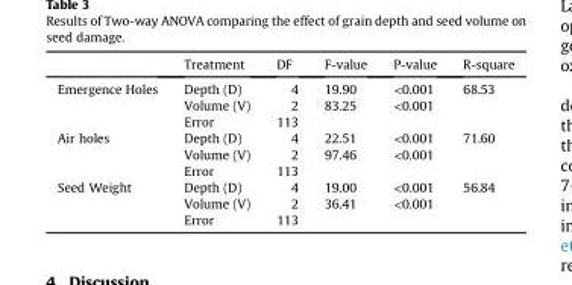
<table><thead><tr><td></td><td>Treatment</td><td>DF</td><td>F-value</td><td>P-value</td><td>R-square</td></tr></thead><tbody><tr><td rowspan="3">Emergence Holes</td><td>Depth (D)</td><td>4</td><td>19.90</td><td>&lt;0.001</td><td rowspan="3">68.53</td></tr><tr><td>Volume (V)</td><td>2</td><td>83.25</td><td>&lt;0.001</td></tr><tr><td>Error</td><td>113</td><td></td><td></td></tr><tr><td rowspan="3">Air holes</td><td>Depth (D)</td><td>4</td><td>22.51</td><td>&lt;0.001</td><td rowspan="3">71.60</td></tr><tr><td>Volume (V)</td><td>2</td><td>97.46</td><td>&lt;0.001</td></tr><tr><td>Error</td><td>113</td><td></td><td></td></tr><tr><td rowspan="3">Seed Weight</td><td>Depth (D)</td><td>4</td><td>19.00</td><td>&lt;0.001</td><td rowspan="3">56.84</td></tr><tr><td>Volume (V)</td><td>2</td><td>36.41</td><td>&lt;0.001</td></tr><tr><td>Error</td><td>113</td><td></td><td></td></tr></tbody></table>